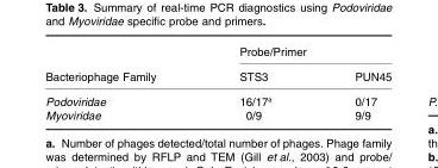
<table><thead><tr><td rowspan="2">Bacteriophage Family</td><td colspan="2">Probe/Primer</td></tr><tr><td>STS3</td><td>PUN45</td></tr></thead><tbody><tr><td>Podoviridae</td><td>16/17<sup>a</sup></td><td>0/17</td></tr><tr><td>Myoviridae</td><td>0/9</td><td>9/9</td></tr></tbody></table>